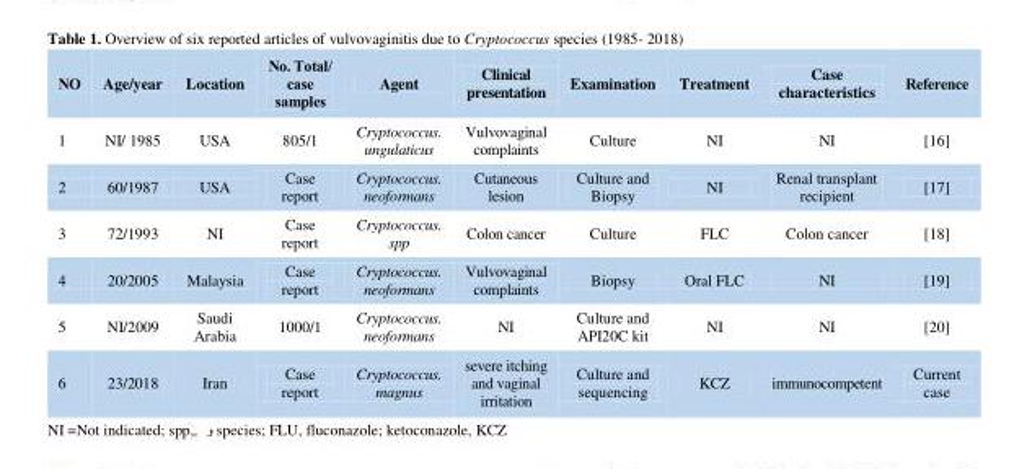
<table><thead><tr><td>NO</td><td>Age/year</td><td>Location</td><td>No. Total/ case samples</td><td>Agent</td><td>Clinical presentation</td><td>Examination</td><td>Treatment</td><td>Case characteristics</td><td>Reference</td></tr></thead><tbody><tr><td>1</td><td>NI/ 1985</td><td>USA</td><td>805/1</td><td>Cryptococcus. ungulaticus</td><td>Vulvovaginal complaints</td><td>Culture</td><td>NI</td><td>NI</td><td>[16]</td></tr><tr><td>2</td><td>60/1987</td><td>USA</td><td>Case report</td><td>Cryptococcus. neoformans</td><td>Cutaneous lesion</td><td>Culture and Biopsy</td><td>NI</td><td>Renal transplant recipient</td><td>[17]</td></tr><tr><td>3</td><td>72/1993</td><td>NI</td><td>Case report</td><td>Cryptococcus. spp</td><td>Colon cancer</td><td>Culture</td><td>FLC</td><td>Colon cancer</td><td>[18]</td></tr><tr><td>4</td><td>20/2005</td><td>Malaysia</td><td>Case report</td><td>Cryptococcus. neoformans</td><td>Vulvovaginal complaints</td><td>Biopsy</td><td>Oral FLC</td><td>NI</td><td>[19]</td></tr><tr><td>5</td><td>NI/2009</td><td>Saudi Arabia</td><td>1000/1</td><td>Cryptococcus. neoformans</td><td>NI</td><td>Culture and API20C kit</td><td>NI</td><td>NI</td><td>[20]</td></tr><tr><td>6</td><td>23/2018</td><td>Iran</td><td>Case report</td><td>Cryptococcus. magnus</td><td>severe itching and vaginal irritation</td><td>Culture and sequencing</td><td>KCZ</td><td>immunocompetent</td><td>Current case</td></tr></tbody></table>